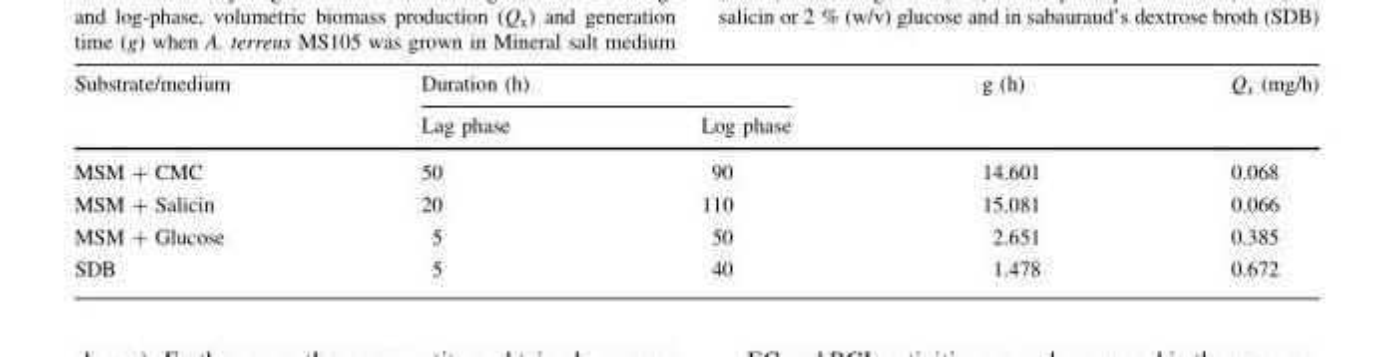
<table><thead><tr><td rowspan="2">Substrate/medium</td><td colspan="2">Duration (h)</td><td rowspan="2">g (h)</td><td rowspan="2">Q<sub>x</sub> (mg/h)</td></tr><tr><td>Lag phase</td><td>Log phase</td></tr></thead><tbody><tr><td>MSM + CMC</td><td>50</td><td>90</td><td>14.601</td><td>0.068</td></tr><tr><td>MSM + Salicin</td><td>20</td><td>110</td><td>15.081</td><td>0.066</td></tr><tr><td>MSM + Glucose</td><td>5</td><td>50</td><td>2.651</td><td>0.385</td></tr><tr><td>SDB</td><td>5</td><td>40</td><td>1.478</td><td>0.672</td></tr></tbody></table>